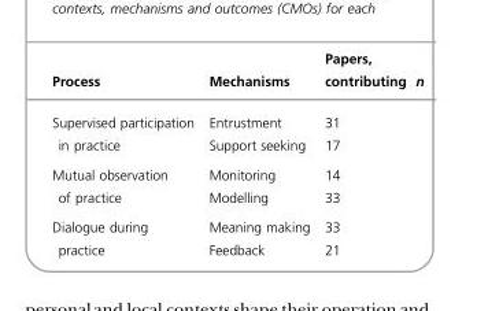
<table><thead><tr><td>Process</td><td>Mechanisms</td><td>Papers, contributing n</td></tr></thead><tbody><tr><td rowspan="2">Supervised participation in practice</td><td>Entrustment</td><td>31</td></tr><tr><td>Support seeking</td><td>17</td></tr><tr><td rowspan="2">Mutual observation of practice</td><td>Monitoring</td><td>14</td></tr><tr><td>Modelling</td><td>33</td></tr><tr><td rowspan="2">Dialogue during practice</td><td>Meaning making</td><td>33</td></tr><tr><td>Feedback</td><td>21</td></tr></tbody></table>